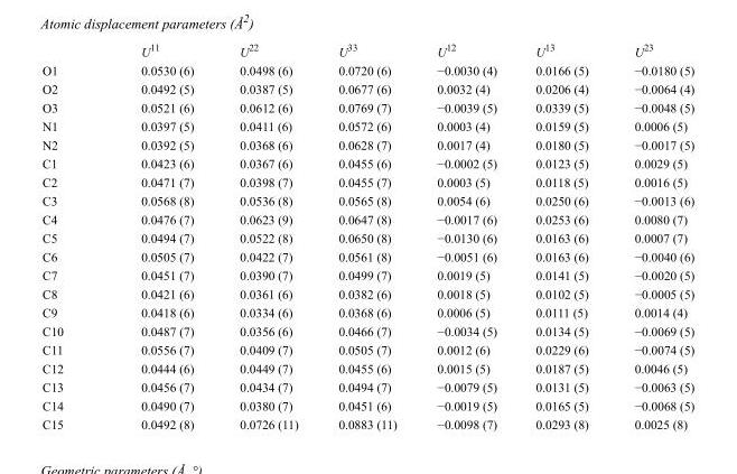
<table><thead><tr><td></td><td>U<sup>11</sup></td><td>U<sup>22</sup></td><td>U<sup>33</sup></td><td>U<sup>12</sup></td><td>U<sup>13</sup></td><td>U<sup>23</sup></td></tr></thead><tbody><tr><td>O1</td><td>0.0530 (6)</td><td>0.0498 (6)</td><td>0.0720 (6)</td><td>−0.0030 (4)</td><td>0.0166 (5)</td><td>−0.0180 (5)</td></tr><tr><td>O2</td><td>0.0492 (5)</td><td>0.0387 (5)</td><td>0.0677 (6)</td><td>0.0032 (4)</td><td>0.0206 (4)</td><td>−0.0064 (4)</td></tr><tr><td>O3</td><td>0.0521 (6)</td><td>0.0612 (6)</td><td>0.0769 (7)</td><td>−0.0039 (5)</td><td>0.0339 (5)</td><td>−0.0048 (5)</td></tr><tr><td>N1</td><td>0.0397 (5)</td><td>0.0411 (6)</td><td>0.0572 (6)</td><td>0.0003 (4)</td><td>0.0159 (5)</td><td>0.0006 (5)</td></tr><tr><td>N2</td><td>0.0392 (5)</td><td>0.0368 (6)</td><td>0.0628 (7)</td><td>0.0017 (4)</td><td>0.0180 (5)</td><td>−0.0017 (5)</td></tr><tr><td>C1</td><td>0.0423 (6)</td><td>0.0367 (6)</td><td>0.0455 (6)</td><td>−0.0002 (5)</td><td>0.0123 (5)</td><td>0.0029 (5)</td></tr><tr><td>C2</td><td>0.0471 (7)</td><td>0.0398 (7)</td><td>0.0455 (7)</td><td>0.0003 (5)</td><td>0.0118 (5)</td><td>0.0016 (5)</td></tr><tr><td>C3</td><td>0.0568 (8)</td><td>0.0536 (8)</td><td>0.0565 (8)</td><td>0.0054 (6)</td><td>0.0250 (6)</td><td>−0.0013 (6)</td></tr><tr><td>C4</td><td>0.0476 (7)</td><td>0.0623 (9)</td><td>0.0647 (8)</td><td>−0.0017 (6)</td><td>0.0253 (6)</td><td>0.0080 (7)</td></tr><tr><td>C5</td><td>0.0494 (7)</td><td>0.0522 (8)</td><td>0.0650 (8)</td><td>−0.0130 (6)</td><td>0.0163 (6)</td><td>0.0007 (7)</td></tr><tr><td>C6</td><td>0.0505 (7)</td><td>0.0422 (7)</td><td>0.0561 (8)</td><td>−0.0051 (6)</td><td>0.0163 (6)</td><td>−0.0040 (6)</td></tr><tr><td>C7</td><td>0.0451 (7)</td><td>0.0390 (7)</td><td>0.0499 (7)</td><td>0.0019 (5)</td><td>0.0141 (5)</td><td>−0.0020 (5)</td></tr><tr><td>C8</td><td>0.0421 (6)</td><td>0.0361 (6)</td><td>0.0382 (6)</td><td>0.0018 (5)</td><td>0.0102 (5)</td><td>−0.0005 (5)</td></tr><tr><td>C9</td><td>0.0418 (6)</td><td>0.0334 (6)</td><td>0.0368 (6)</td><td>0.0006 (5)</td><td>0.0111 (5)</td><td>0.0014 (4)</td></tr><tr><td>C10</td><td>0.0487 (7)</td><td>0.0356 (6)</td><td>0.0466 (7)</td><td>−0.0034 (5)</td><td>0.0134 (5)</td><td>−0.0069 (5)</td></tr><tr><td>C11</td><td>0.0556 (7)</td><td>0.0409 (7)</td><td>0.0505 (7)</td><td>0.0012 (6)</td><td>0.0229 (6)</td><td>−0.0074 (5)</td></tr><tr><td>C12</td><td>0.0444 (6)</td><td>0.0449 (7)</td><td>0.0455 (6)</td><td>0.0015 (5)</td><td>0.0187 (5)</td><td>0.0046 (5)</td></tr><tr><td>C13</td><td>0.0456 (7)</td><td>0.0434 (7)</td><td>0.0494 (7)</td><td>−0.0079 (5)</td><td>0.0131 (5)</td><td>−0.0063 (5)</td></tr><tr><td>C14</td><td>0.0490 (7)</td><td>0.0380 (7)</td><td>0.0451 (6)</td><td>−0.0019 (5)</td><td>0.0165 (5)</td><td>−0.0068 (5)</td></tr><tr><td>C15</td><td>0.0492 (8)</td><td>0.0726 (11)</td><td>0.0883 (11)</td><td>−0.0098 (7)</td><td>0.0293 (8)</td><td>0.0025 (8)</td></tr></tbody></table>